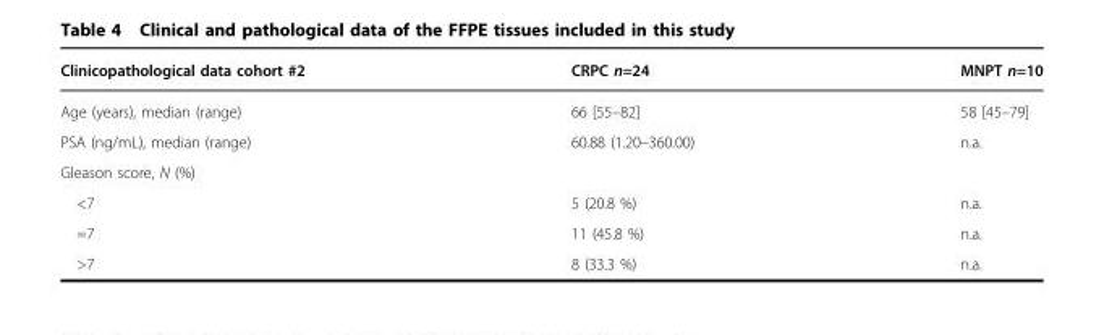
<table><thead><tr><td>Clinicopathological data cohort #2</td><td>CRPC n=24</td><td>MNPT n=10</td></tr></thead><tbody><tr><td>Age (years), median (range)</td><td>66 [55–82]</td><td>58 [45–79]</td></tr><tr><td>PSA (ng/mL), median (range)</td><td>60.88 (1.20–360.00)</td><td>n.a.</td></tr><tr><td colspan="3">Gleason score, N (%)</td></tr><tr><td>&lt;7</td><td>5 (20.8 %)</td><td>n.a.</td></tr><tr><td>=7</td><td>11 (45.8 %)</td><td>n.a.</td></tr><tr><td>&gt;7</td><td>8 (33.3 %)</td><td>n.a.</td></tr></tbody></table>